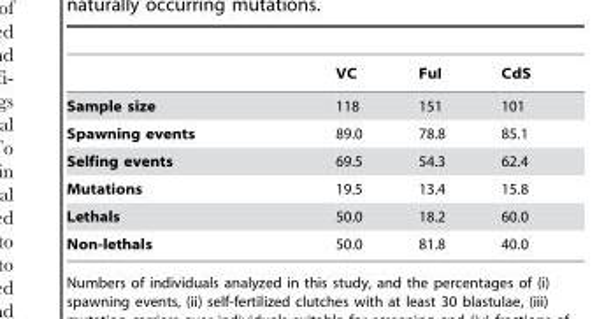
<table><thead><tr><td></td><td>VC</td><td>FuI</td><td>CdS</td></tr></thead><tbody><tr><td>Sample size</td><td>118</td><td>151</td><td>101</td></tr><tr><td>Spawning events</td><td>89.0</td><td>78.8</td><td>85.1</td></tr><tr><td>Selfing events</td><td>69.5</td><td>54.3</td><td>62.4</td></tr><tr><td>Mutations</td><td>19.5</td><td>13.4</td><td>15.8</td></tr><tr><td>Lethals</td><td>50.0</td><td>18.2</td><td>60.0</td></tr><tr><td>Non-lethals</td><td>50.0</td><td>81.8</td><td>40.0</td></tr></tbody></table>